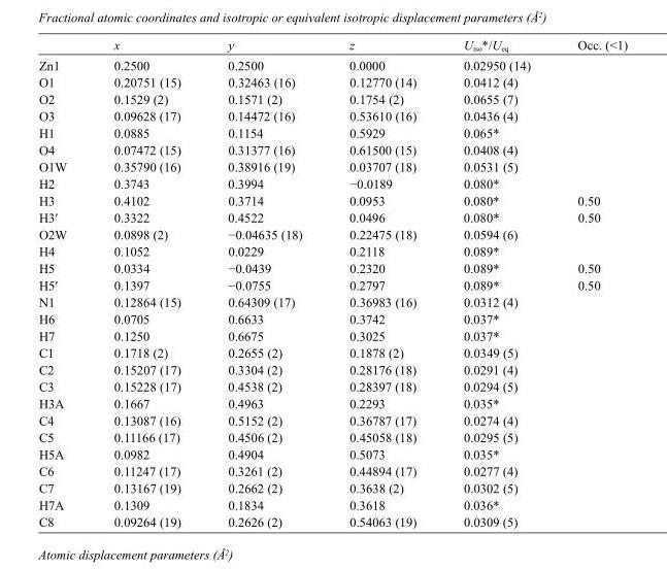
<table><thead><tr><td></td><td>x</td><td>y</td><td>z</td><td>U<sub>iso</sub>*/U<sub>eq</sub></td><td>Occ. (&lt;1)</td></tr></thead><tbody><tr><td>Zn1</td><td>0.2500</td><td>0.2500</td><td>0.0000</td><td>0.02950 (14)</td><td></td></tr><tr><td>O1</td><td>0.20751 (15)</td><td>0.32463 (16)</td><td>0.12770 (14)</td><td>0.0412 (4)</td><td></td></tr><tr><td>O2</td><td>0.1529 (2)</td><td>0.1571 (2)</td><td>0.1754 (2)</td><td>0.0655 (7)</td><td></td></tr><tr><td>O3</td><td>0.09628 (17)</td><td>0.14472 (16)</td><td>0.53610 (16)</td><td>0.0436 (4)</td><td></td></tr><tr><td>H1</td><td>0.0885</td><td>0.1154</td><td>0.5929</td><td>0.065*</td><td></td></tr><tr><td>O4</td><td>0.07472 (15)</td><td>0.31377 (16)</td><td>0.61500 (15)</td><td>0.0408 (4)</td><td></td></tr><tr><td>O1W</td><td>0.35790 (16)</td><td>0.38916 (19)</td><td>0.03707 (18)</td><td>0.0531 (5)</td><td></td></tr><tr><td>H2</td><td>0.3743</td><td>0.3994</td><td>−0.0189</td><td>0.080*</td><td></td></tr><tr><td>H3</td><td>0.4102</td><td>0.3714</td><td>0.0953</td><td>0.080*</td><td>0.50</td></tr><tr><td>H3′</td><td>0.3322</td><td>0.4522</td><td>0.0496</td><td>0.080*</td><td>0.50</td></tr><tr><td>O2W</td><td>0.0898 (2)</td><td>−0.04635 (18)</td><td>0.22475 (18)</td><td>0.0594 (6)</td><td></td></tr><tr><td>H4</td><td>0.1052</td><td>0.0229</td><td>0.2118</td><td>0.089*</td><td></td></tr><tr><td>H5</td><td>0.0334</td><td>−0.0439</td><td>0.2320</td><td>0.089*</td><td>0.50</td></tr><tr><td>H5′</td><td>0.1397</td><td>−0.0755</td><td>0.2797</td><td>0.089*</td><td>0.50</td></tr><tr><td>N1</td><td>0.12864 (15)</td><td>0.64309 (17)</td><td>0.36983 (16)</td><td>0.0312 (4)</td><td></td></tr><tr><td>H6</td><td>0.0705</td><td>0.6633</td><td>0.3742</td><td>0.037*</td><td></td></tr><tr><td>H7</td><td>0.1250</td><td>0.6675</td><td>0.3025</td><td>0.037*</td><td></td></tr><tr><td>C1</td><td>0.1718 (2)</td><td>0.2655 (2)</td><td>0.1878 (2)</td><td>0.0349 (5)</td><td></td></tr><tr><td>C2</td><td>0.15207 (17)</td><td>0.3304 (2)</td><td>0.28176 (18)</td><td>0.0291 (4)</td><td></td></tr><tr><td>C3</td><td>0.15228 (17)</td><td>0.4538 (2)</td><td>0.28397 (18)</td><td>0.0294 (5)</td><td></td></tr><tr><td>H3A</td><td>0.1667</td><td>0.4963</td><td>0.2293</td><td>0.035*</td><td></td></tr><tr><td>C4</td><td>0.13087 (16)</td><td>0.5152 (2)</td><td>0.36787 (17)</td><td>0.0274 (4)</td><td></td></tr><tr><td>C5</td><td>0.11166 (17)</td><td>0.4506 (2)</td><td>0.45058 (18)</td><td>0.0295 (5)</td><td></td></tr><tr><td>H5A</td><td>0.0982</td><td>0.4904</td><td>0.5073</td><td>0.035*</td><td></td></tr><tr><td>C6</td><td>0.11247 (17)</td><td>0.3261 (2)</td><td>0.44894 (17)</td><td>0.0277 (4)</td><td></td></tr><tr><td>C7</td><td>0.13167 (19)</td><td>0.2662 (2)</td><td>0.3638 (2)</td><td>0.0302 (5)</td><td></td></tr><tr><td>H7A</td><td>0.1309</td><td>0.1834</td><td>0.3618</td><td>0.036*</td><td></td></tr><tr><td>C8</td><td>0.09264 (19)</td><td>0.2626 (2)</td><td>0.54063 (19)</td><td>0.0309 (5)</td><td></td></tr></tbody></table>